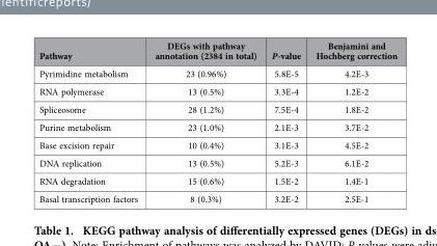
<table><thead><tr><td>Pathway</td><td>DEGs with pathway annotation (2384 in total)</td><td>P-value</td><td>Benjamini and Hochberg correction</td></tr></thead><tbody><tr><td>Pyrimidine metabolism</td><td>23 (0.96%)</td><td>5.8E-5</td><td>4.2E-3</td></tr><tr><td>RNA polymerase</td><td>13 (0.5%)</td><td>3.3E-4</td><td>1.2E-2</td></tr><tr><td>Spliceosome</td><td>28 (1.2%)</td><td>7.5E-4</td><td>1.8E-2</td></tr><tr><td>Purine metabolism</td><td>23 (1.0%)</td><td>2.1E-3</td><td>3.7E-2</td></tr><tr><td>Base excision repair</td><td>10 (0.4%)</td><td>3.1E-3</td><td>4.5E-2</td></tr><tr><td>DNA replication</td><td>13 (0.5%)</td><td>5.2E-3</td><td>6.1E-2</td></tr><tr><td>RNA degradation</td><td>15 (0.6%)</td><td>1.5E-2</td><td>1.4E-1</td></tr><tr><td>Basal transcription factors</td><td>8 (0.3%)</td><td>3.2E-2</td><td>2.5E-1</td></tr></tbody></table>